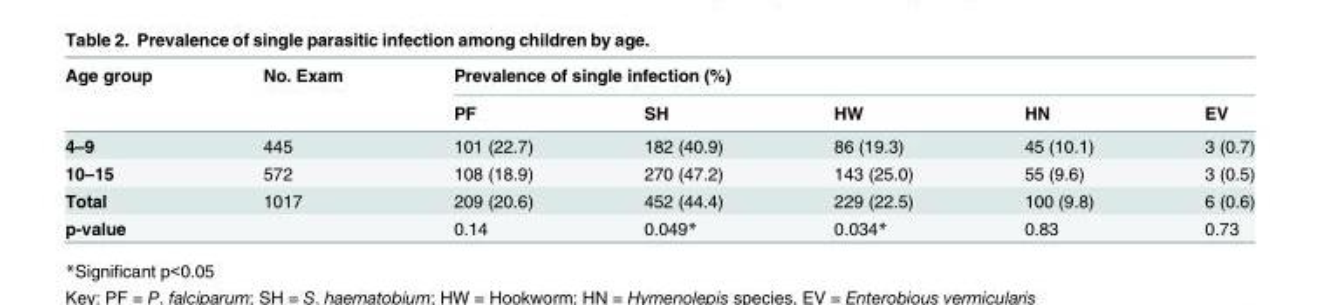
<table><thead><tr><td rowspan="2">Age group</td><td rowspan="2">No. Exam</td><td colspan="5">Prevalence of single infection (%)</td></tr><tr><td>PF</td><td>SH</td><td>HW</td><td>HN</td><td>EV</td></tr></thead><tbody><tr><td>4–9</td><td>445</td><td>101 (22.7)</td><td>182 (40.9)</td><td>86 (19.3)</td><td>45 (10.1)</td><td>3 (0.7)</td></tr><tr><td>10–15</td><td>572</td><td>108 (18.9)</td><td>270 (47.2)</td><td>143 (25.0)</td><td>55 (9.6)</td><td>3 (0.5)</td></tr><tr><td>Total</td><td>1017</td><td>209 (20.6)</td><td>452 (44.4)</td><td>229 (22.5)</td><td>100 (9.8)</td><td>6 (0.6)</td></tr><tr><td>p-value</td><td></td><td>0.14</td><td>0.049*</td><td>0.034*</td><td>0.83</td><td>0.73</td></tr></tbody></table>